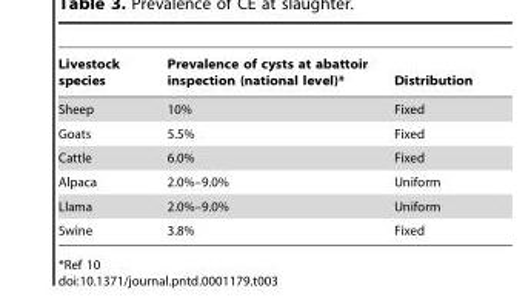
<table><thead><tr><td>Livestock species</td><td>Prevalence of cysts at abattoir inspection (national level)*</td><td>Distribution</td></tr></thead><tbody><tr><td>Sheep</td><td>10%</td><td>Fixed</td></tr><tr><td>Goats</td><td>5.5%</td><td>Fixed</td></tr><tr><td>Cattle</td><td>6.0%</td><td>Fixed</td></tr><tr><td>Alpaca</td><td>2.0%–9.0%</td><td>Uniform</td></tr><tr><td>Llama</td><td>2.0%–9.0%</td><td>Uniform</td></tr><tr><td>Swine</td><td>3.8%</td><td>Fixed</td></tr></tbody></table>